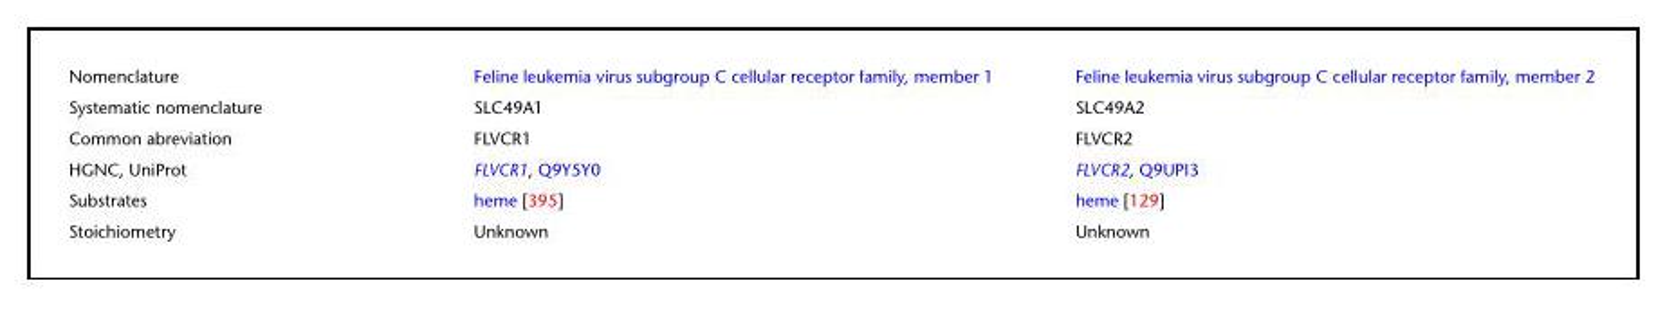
<table><tbody><tr><td>Nomenclature</td><td>Feline leukemia virus subgroup C cellular receptor family, member 1</td><td>Feline leukemia virus subgroup C cellular receptor family, member 2</td></tr><tr><td>Systematic nomenclature</td><td>SLC49A1</td><td>SLC49A2</td></tr><tr><td>Common abreviation</td><td>FLVCR1</td><td>FLVCR2</td></tr><tr><td>HGNC, UniProt</td><td>FLVCR1, Q9Y5Y0</td><td>FLVCR2, Q9UPI3</td></tr><tr><td>Substrates</td><td>heme [395]</td><td>heme [129]</td></tr><tr><td>Stoichiometry</td><td>Unknown</td><td>Unknown</td></tr></tbody></table>